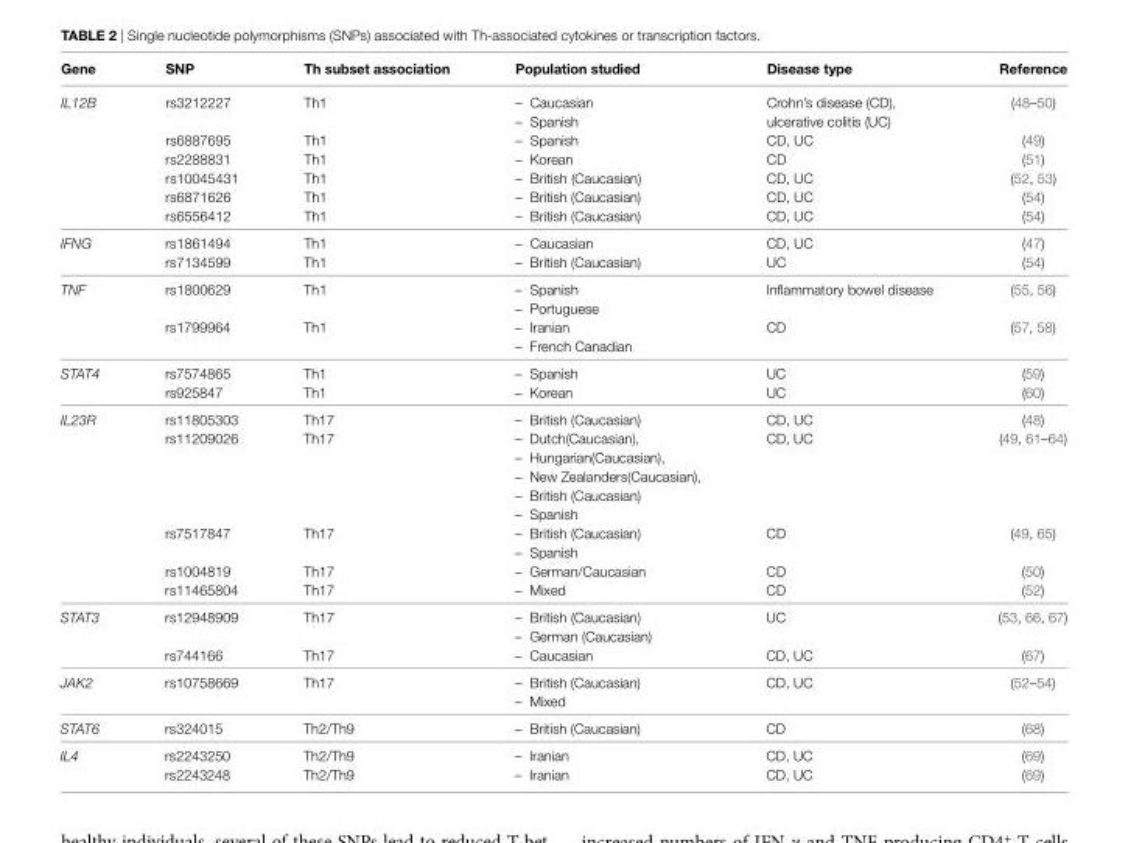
<table><thead><tr><td>gene</td><td>SNP</td><td>Th subset association</td><td>Population studied</td><td>Disease type</td><td>Reference</td></tr></thead><tbody><tr><td rowspan="6">IL12B</td><td>rs3212227</td><td>Th1</td><td>– Caucasian – Spanish</td><td>Crohn’s disease (CD), ulcerative colitis (UC)</td><td>(48–50)</td></tr><tr><td>rs6887695</td><td>Th1</td><td>– Spanish</td><td>CD, UC</td><td>(49)</td></tr><tr><td>rs2288831</td><td>Th1</td><td>– Korean</td><td>CD</td><td>(51)</td></tr><tr><td>rs10045431</td><td>Th1</td><td>– British (Caucasian)</td><td>CD, UC</td><td>(52, 53)</td></tr><tr><td>rs6871626</td><td>Th1</td><td>– British (Caucasian)</td><td>CD, UC</td><td>(54)</td></tr><tr><td>rs6556412</td><td>Th1</td><td>– British (Caucasian)</td><td>CD, UC</td><td>(54)</td></tr><tr><td rowspan="2">IFNG</td><td>rs1861494</td><td>Th1</td><td>– Caucasian</td><td>CD, UC</td><td>(47)</td></tr><tr><td>rs7134599</td><td>Th1</td><td>– British (Caucasian)</td><td>UC</td><td>(54)</td></tr><tr><td rowspan="2">TNF</td><td>rs1800629</td><td>Th1</td><td>– Spanish – Portuguese</td><td>Inflammatory bowel disease</td><td>(55, 56)</td></tr><tr><td>rs1799964</td><td>Th1</td><td>– Iranian – French Canadian</td><td>CD</td><td>(57, 58)</td></tr><tr><td rowspan="2">STAT4</td><td>rs7574865</td><td>Th1</td><td>– Spanish</td><td>UC</td><td>(59)</td></tr><tr><td>rs925847</td><td>Th1</td><td>– Korean</td><td>UC</td><td>(60)</td></tr><tr><td rowspan="5">IL23R</td><td>rs11805303</td><td>Th17</td><td>– British (Caucasian)</td><td>CD, UC</td><td>(48)</td></tr><tr><td>rs11209026</td><td>Th17</td><td>– Dutch(Caucasian), – Hungarian(Caucasian), – New Zealanders(Caucasian), – British (Caucasian) – Spanish</td><td>CD, UC</td><td>(49, 61–64)</td></tr><tr><td>rs7517847</td><td>Th17</td><td>– British (Caucasian) – Spanish</td><td>CD</td><td>(49, 65)</td></tr><tr><td>rs1004819</td><td>Th17</td><td>– German/Caucasian</td><td>CD</td><td>(50)</td></tr><tr><td>rs11465804</td><td>Th17</td><td>– Mixed</td><td>CD</td><td>(52)</td></tr><tr><td rowspan="2">STAT3</td><td>rs12948909</td><td>Th17</td><td>– British (Caucasian) – German (Caucasian)</td><td>UC</td><td>(53, 66, 67)</td></tr><tr><td>rs744166</td><td>Th17</td><td>– Caucasian</td><td>CD, UC</td><td>(67)</td></tr><tr><td>JAK2</td><td>rs10758669</td><td>Th17</td><td>– British (Caucasian) – Mixed</td><td>CD, UC</td><td>(52–54)</td></tr><tr><td>STAT6</td><td>rs324015</td><td>Th2/Th9</td><td>– British (Caucasian)</td><td>CD</td><td>(68)</td></tr><tr><td rowspan="2">IL4</td><td>rs2243250</td><td>Th2/Th9</td><td>– Iranian</td><td>CD, UC</td><td>(69)</td></tr><tr><td>rs2243248</td><td>Th2/Th9</td><td>– Iranian</td><td>CD, UC</td><td>(69)</td></tr></tbody></table>